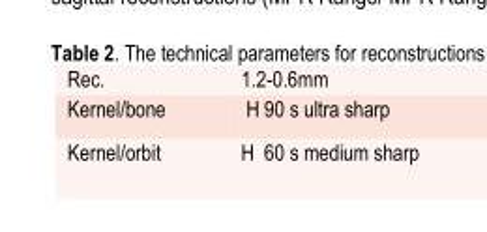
<table><tbody><tr><td>Rec.</td><td>1.2-0.6mm</td></tr><tr><td>Kernel/bone</td><td>H 90 s ultra sharp</td></tr><tr><td>Kernel/orbit</td><td>H 60 s medium sharp</td></tr></tbody></table>